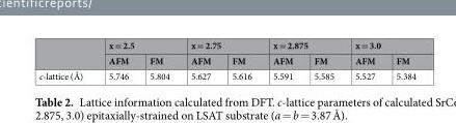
<table><thead><tr><td rowspan="2"></td><td colspan="2">x = 2.5</td><td colspan="2">x = 2.75</td><td colspan="2">x = 2.875</td><td colspan="2">x = 3.0</td></tr><tr><td>AFM</td><td>FM</td><td>AFM</td><td>FM</td><td>AFM</td><td>FM</td><td>AFM</td><td>FM</td></tr></thead><tbody><tr><td>c-lattice (Å)</td><td>5.746</td><td>5.804</td><td>5.627</td><td>5.616</td><td>5.591</td><td>5.585</td><td>5.527</td><td>5.384</td></tr></tbody></table>